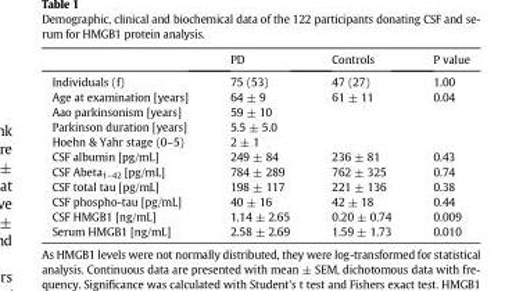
<table><thead><tr><td></td><td>PD</td><td>Controls</td><td>P value</td></tr></thead><tbody><tr><td>Individuals (f)</td><td>75 (53)</td><td>47 (27)</td><td>1.00</td></tr><tr><td>Age at examination [years]</td><td>64 ± 9</td><td>61 ± 11</td><td>0.04</td></tr><tr><td>Aao parkinsonism [years]</td><td>59 ± 10</td><td></td><td></td></tr><tr><td>Parkinson duration [years]</td><td>5.5 ± 5.0</td><td></td><td></td></tr><tr><td>Hoehn &amp; Yahr stage (0–5)</td><td>2 ± 1</td><td></td><td></td></tr><tr><td>CSF albumin [pg/mL]</td><td>249 ± 84</td><td>236 ± 81</td><td>0.43</td></tr><tr><td>CSF Abeta<sub>1–42</sub> [pg/mL]</td><td>784 ± 289</td><td>762 ± 325</td><td>0.74</td></tr><tr><td>CSF total tau [pg/mL]</td><td>198 ± 117</td><td>221 ± 136</td><td>0.38</td></tr><tr><td>CSF phospho-tau [pg/mL]</td><td>40 ± 16</td><td>42 ± 18</td><td>0.44</td></tr><tr><td>CSF HMGB1 [ng/mL]</td><td>1.14 ± 2.65</td><td>0.20 ± 0.74</td><td>0.009</td></tr><tr><td>Serum HMGB1 [ng/mL]</td><td>2.58 ± 2.69</td><td>1.59 ± 1.73</td><td>0.010</td></tr></tbody></table>